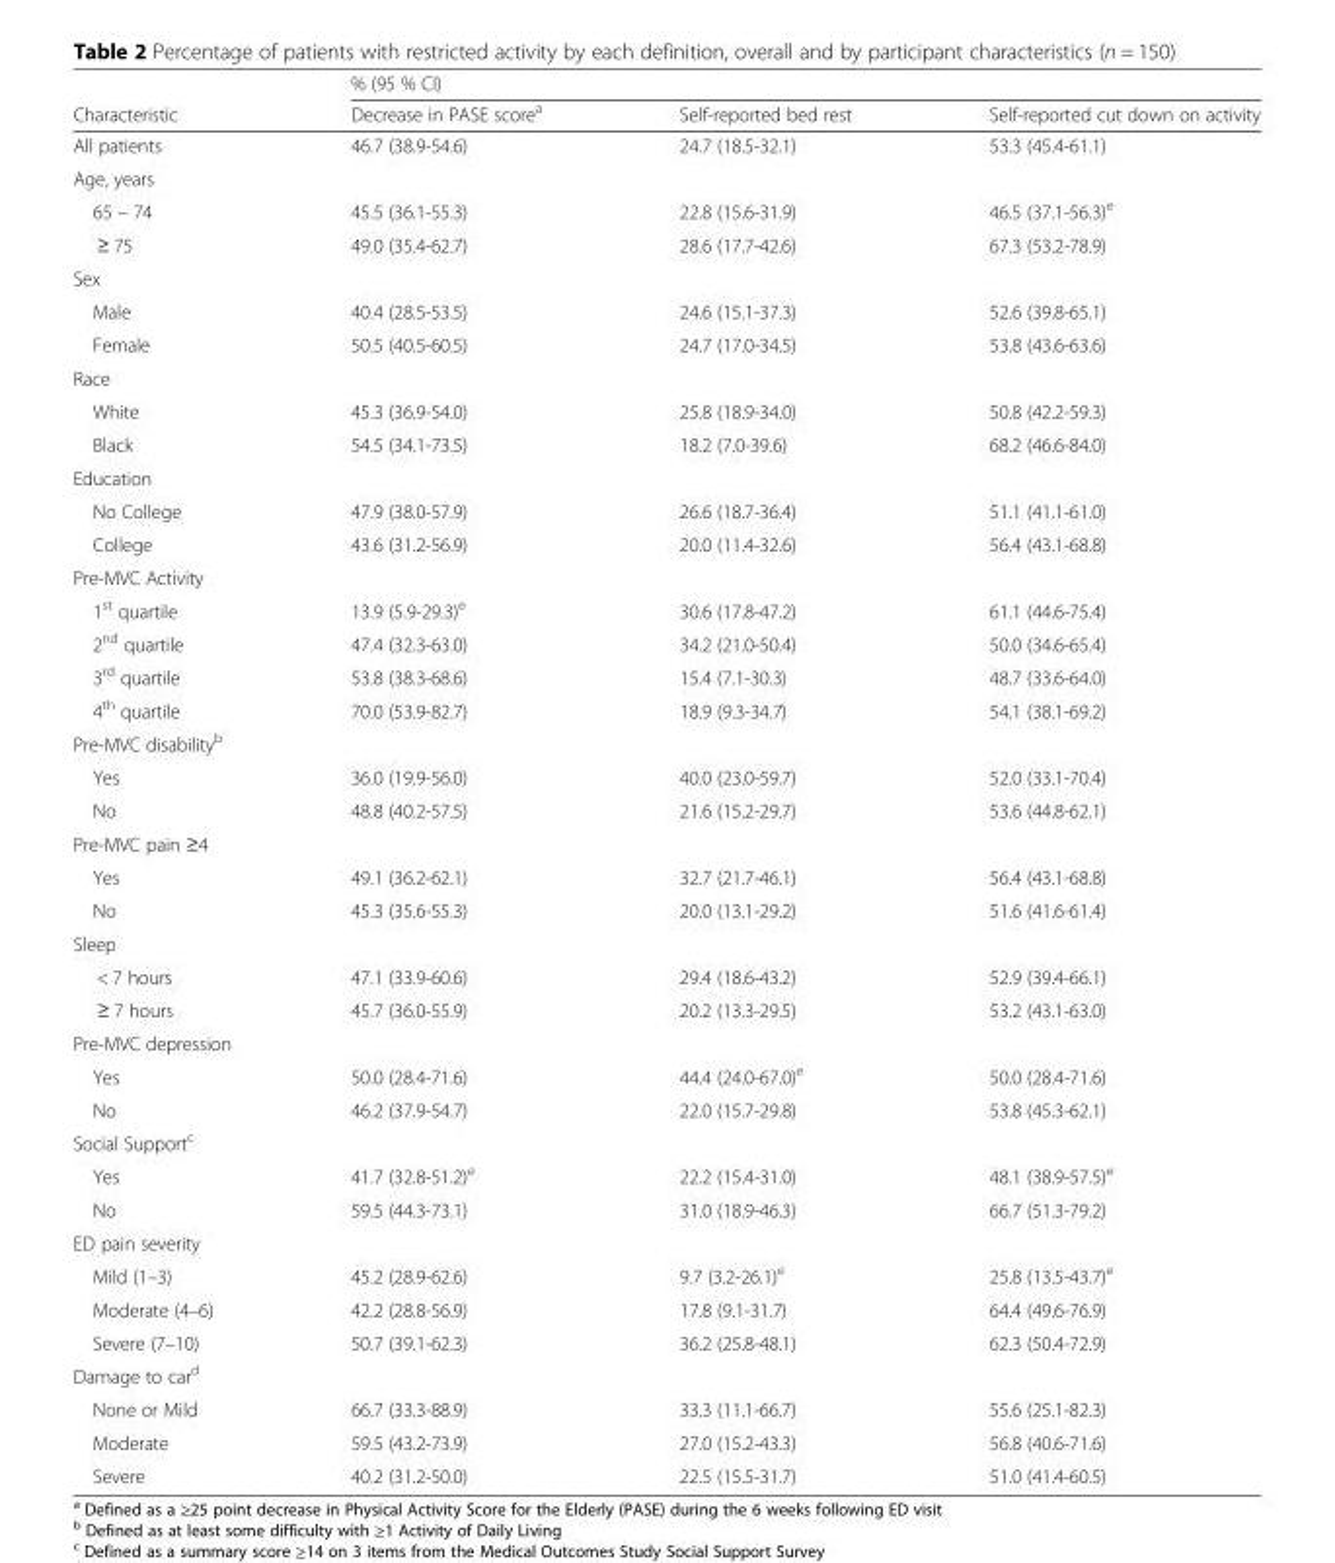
<table><thead><tr><td rowspan="2">Characteristic</td><td colspan="3">% (95 % CI)</td></tr><tr><td>Decrease in PASE score<sup>a</sup></td><td>Self-reported bed rest</td><td>Self-reported cut down on activity</td></tr></thead><tbody><tr><td>All patients</td><td>46.7 (38.9-54.6)</td><td>24.7 (18.5-32.1)</td><td>53.3 (45.4-61.1)</td></tr><tr><td colspan="4">Age, years</td></tr><tr><td>65 – 74</td><td>45.5 (36.1-55.3)</td><td>22.8 (15.6-31.9)</td><td>46.5 (37.1-56.3)<sup>e</sup></td></tr><tr><td>≥ 75</td><td>49.0 (35.4-62.7)</td><td>28.6 (17.7-42.6)</td><td>67.3 (53.2-78.9)</td></tr><tr><td colspan="4">Sex</td></tr><tr><td>Male</td><td>40.4 (28.5-53.5)</td><td>24.6 (15.1-37.3)</td><td>52.6 (39.8-65.1)</td></tr><tr><td>Female</td><td>50.5 (40.5-60.5)</td><td>24.7 (17.0-34.5)</td><td>53.8 (43.6-63.6)</td></tr><tr><td colspan="4">Race</td></tr><tr><td>White</td><td>45.3 (36.9-54.0)</td><td>25.8 (18.9-34.0)</td><td>50.8 (42.2-59.3)</td></tr><tr><td>Black</td><td>54.5 (34.1-73.5)</td><td>18.2 (7.0-39.6)</td><td>68.2 (46.6-84.0)</td></tr><tr><td colspan="4">Education</td></tr><tr><td>No College</td><td>47.9 (38.0-57.9)</td><td>26.6 (18.7-36.4)</td><td>51.1 (41.1-61.0)</td></tr><tr><td>College</td><td>43.6 (31.2-56.9)</td><td>20.0 (11.4-32.6)</td><td>56.4 (43.1-68.8)</td></tr><tr><td colspan="4">Pre-MVC Activity</td></tr><tr><td>1<sup>st</sup> quartile</td><td>13.9 (5.9-29.3)<sup>e</sup></td><td>30.6 (17.8-47.2)</td><td>61.1 (44.6-75.4)</td></tr><tr><td>2<sup>nd</sup> quartile</td><td>47.4 (32.3-63.0)</td><td>34.2 (21.0-50.4)</td><td>50.0 (34.6-65.4)</td></tr><tr><td>3<sup>rd</sup> quartile</td><td>53.8 (38.3-68.6)</td><td>15.4 (7.1-30.3)</td><td>48.7 (33.6-64.0)</td></tr><tr><td>4<sup>th</sup> quartile</td><td>70.0 (53.9-82.7)</td><td>18.9 (9.3-34.7)</td><td>54.1 (38.1-69.2)</td></tr><tr><td colspan="4">Pre-MVC disability<sup>b</sup></td></tr><tr><td>Yes</td><td>36.0 (19.9-56.0)</td><td>40.0 (23.0-59.7)</td><td>52.0 (33.1-70.4)</td></tr><tr><td>No</td><td>48.8 (40.2-57.5)</td><td>21.6 (15.2-29.7)</td><td>53.6 (44.8-62.1)</td></tr><tr><td colspan="4">Pre-MVC pain ≥4</td></tr><tr><td>Yes</td><td>49.1 (36.2-62.1)</td><td>32.7 (21.7-46.1)</td><td>56.4 (43.1-68.8)</td></tr><tr><td>No</td><td>45.3 (35.6-55.3)</td><td>20.0 (13.1-29.2)</td><td>51.6 (41.6-61.4)</td></tr><tr><td colspan="4">Sleep</td></tr><tr><td>&lt; 7 hours</td><td>47.1 (33.9-60.6)</td><td>29.4 (18.6-43.2)</td><td>52.9 (39.4-66.1)</td></tr><tr><td>≥ 7 hours</td><td>45.7 (36.0-55.9)</td><td>20.2 (13.3-29.5)</td><td>53.2 (43.1-63.0)</td></tr><tr><td colspan="4">Pre-MVC depression</td></tr><tr><td>Yes</td><td>50.0 (28.4-71.6)</td><td>44.4 (24.0-67.0)<sup>e</sup></td><td>50.0 (28.4-71.6)</td></tr><tr><td>No</td><td>46.2 (37.9-54.7)</td><td>22.0 (15.7-29.8)</td><td>53.8 (45.3-62.1)</td></tr><tr><td colspan="4">Social Support<sup>c</sup></td></tr><tr><td>Yes</td><td>41.7 (32.8-51.2)<sup>e</sup></td><td>22.2 (15.4-31.0)</td><td>48.1 (38.9-57.5)<sup>e</sup></td></tr><tr><td>No</td><td>59.5 (44.3-73.1)</td><td>31.0 (18.9-46.3)</td><td>66.7 (51.3-79.2)</td></tr><tr><td colspan="4">ED pain severity</td></tr><tr><td>Mild (1–3)</td><td>45.2 (28.9-62.6)</td><td>9.7 (3.2-26.1)<sup>e</sup></td><td>25.8 (13.5-43.7)<sup>e</sup></td></tr><tr><td>Moderate (4–6)</td><td>42.2 (28.8-56.9)</td><td>17.8 (9.1-31.7)</td><td>64.4 (49.6-76.9)</td></tr><tr><td>Severe (7–10)</td><td>50.7 (39.1-62.3)</td><td>36.2 (25.8-48.1)</td><td>62.3 (50.4-72.9)</td></tr><tr><td colspan="4">Damage to car<sup>d</sup></td></tr><tr><td>None or Mild</td><td>66.7 (33.3-88.9)</td><td>33.3 (11.1-66.7)</td><td>55.6 (25.1-82.3)</td></tr><tr><td>Moderate</td><td>59.5 (43.2-73.9)</td><td>27.0 (15.2-43.3)</td><td>56.8 (40.6-71.6)</td></tr><tr><td>Severe</td><td>40.2 (31.2-50.0)</td><td>22.5 (15.5-31.7)</td><td>51.0 (41.4-60.5)</td></tr></tbody></table>